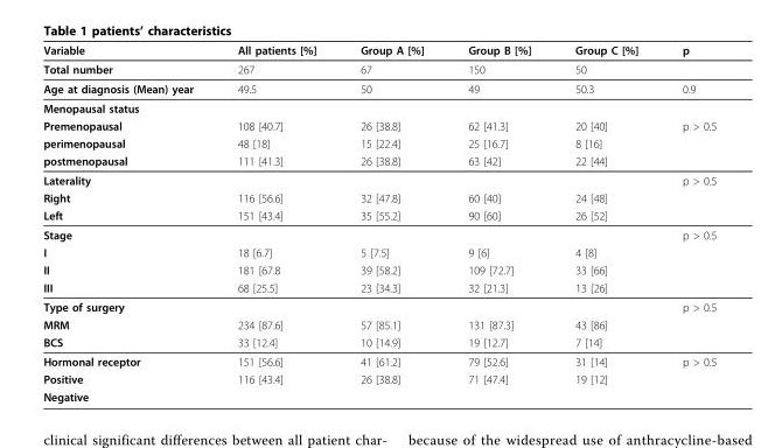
<table><thead><tr><td>Variable</td><td>All patients [%]</td><td>Group A [%]</td><td>Group B [%]</td><td>Group C [%]</td><td>p</td></tr></thead><tbody><tr><td>Total number</td><td>267</td><td>67</td><td>150</td><td>50</td><td></td></tr><tr><td>Age at diagnosis (Mean) year</td><td>49.5</td><td>50</td><td>49</td><td>50.3</td><td>0.9</td></tr><tr><td colspan="6">Menopausal status</td></tr><tr><td>Premenopausal</td><td>108 [40.7]</td><td>26 [38.8]</td><td>62 [41.3]</td><td>20 [40]</td><td>p &gt; 0.5</td></tr><tr><td>perimenopausal</td><td>48 [18]</td><td>15 [22.4]</td><td>25 [16.7]</td><td>8 [16]</td><td></td></tr><tr><td>postmenopausal</td><td>111 [41.3]</td><td>26 [38.8]</td><td>63 [42]</td><td>22 [44]</td><td></td></tr><tr><td>Laterality</td><td></td><td></td><td></td><td></td><td>p &gt; 0.5</td></tr><tr><td>Right</td><td>116 [56.6]</td><td>32 [47.8]</td><td>60 [40]</td><td>24 [48]</td><td></td></tr><tr><td>Left</td><td>151 [43.4]</td><td>35 [55.2]</td><td>90 [60]</td><td>26 [52]</td><td></td></tr><tr><td>Stage</td><td></td><td></td><td></td><td></td><td>p &gt; 0.5</td></tr><tr><td>I</td><td>18 [6.7]</td><td>5 [7.5]</td><td>9 [6]</td><td>4 [8]</td><td></td></tr><tr><td>II</td><td>181 [67.8</td><td>39 [58.2]</td><td>109 [72.7]</td><td>33 [66]</td><td></td></tr><tr><td>III</td><td>68 [25.5]</td><td>23 [34.3]</td><td>32 [21.3]</td><td>13 [26]</td><td></td></tr><tr><td>Type of surgery</td><td></td><td></td><td></td><td></td><td>p &gt; 0.5</td></tr><tr><td>MRM</td><td>234 [87.6]</td><td>57 [85.1]</td><td>131 [87.3]</td><td>43 [86]</td><td></td></tr><tr><td>BCS</td><td>33 [12.4]</td><td>10 [14.9]</td><td>19 [12.7]</td><td>7 [14]</td><td></td></tr><tr><td>Hormonal receptor</td><td>151 [56.6]</td><td>41 [61.2]</td><td>79 [52.6]</td><td>31 [14]</td><td>p &gt; 0.5</td></tr><tr><td>Positive</td><td>116 [43.4]</td><td>26 [38.8]</td><td>71 [47.4]</td><td>19 [12]</td><td></td></tr><tr><td>Negative</td><td></td><td></td><td></td><td></td><td></td></tr></tbody></table>